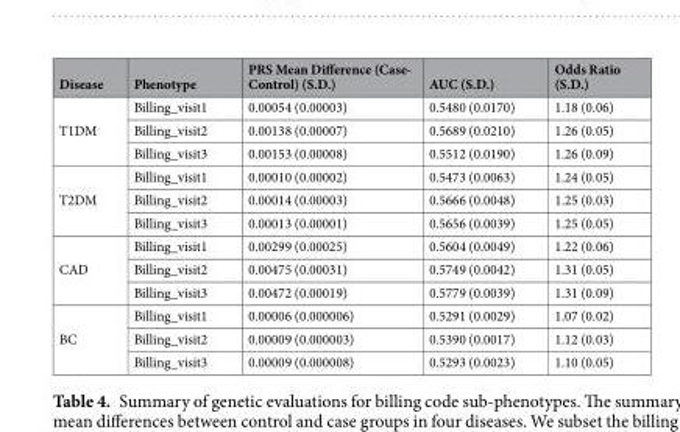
<table><thead><tr><td>Disease</td><td>Phenotype</td><td>PRS Mean Difference (Case- Control) (S.D.)</td><td>AUC (S.D.)</td><td>Odds Ratio (S.D.)</td></tr></thead><tbody><tr><td rowspan="3">T1DM</td><td>Billing_visit1</td><td>0.00054 (0.00003)</td><td>0.5480 (0.0170)</td><td>1.18 (0.06)</td></tr><tr><td>Billing_visit2</td><td>0.00138 (0.00007)</td><td>0.5689 (0.0210)</td><td>1.26 (0.05)</td></tr><tr><td>Billing_visit3</td><td>0.00153 (0.00008)</td><td>0.5512 (0.0190)</td><td>1.26 (0.09)</td></tr><tr><td rowspan="3">T2DM</td><td>Billing_visit1</td><td>0.00010 (0.00002)</td><td>0.5473 (0.0063)</td><td>1.24 (0.05)</td></tr><tr><td>Billing_visit2</td><td>0.00014 (0.00003)</td><td>0.5666 (0.0048)</td><td>1.25 (0.03)</td></tr><tr><td>Billing_visit3</td><td>0.00013 (0.00001)</td><td>0.5656 (0.0039)</td><td>1.25 (0.05)</td></tr><tr><td rowspan="3">CAD</td><td>Billing_visit1</td><td>0.00299 (0.00025)</td><td>0.5604 (0.0049)</td><td>1.22 (0.06)</td></tr><tr><td>Billing_visit2</td><td>0.00475 (0.00031)</td><td>0.5749 (0.0042)</td><td>1.31 (0.05)</td></tr><tr><td>Billing_visit3</td><td>0.00472 (0.00019)</td><td>0.5779 (0.0039)</td><td>1.31 (0.09)</td></tr><tr><td rowspan="3">BC</td><td>Billing_visit1</td><td>0.00006 (0.000006)</td><td>0.5291 (0.0029)</td><td>1.07 (0.02)</td></tr><tr><td>Billing_visit2</td><td>0.00009 (0.000003)</td><td>0.5390 (0.0017)</td><td>1.12 (0.03)</td></tr><tr><td>Billing_visit3</td><td>0.00009 (0.000008)</td><td>0.5293 (0.0023)</td><td>1.10 (0.05)</td></tr></tbody></table>